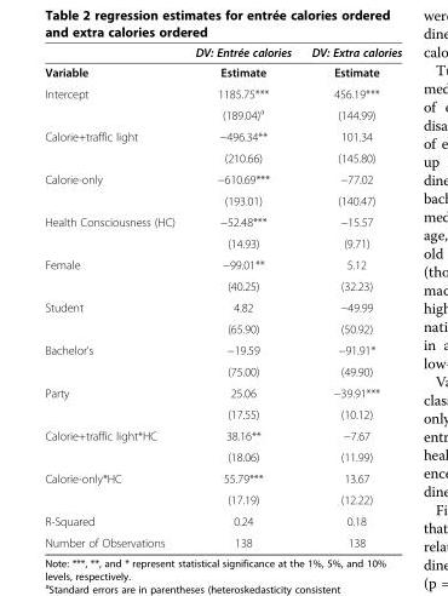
<table><thead><tr><td></td><td>DV: Entrée calories</td><td>DV: Extra calories</td></tr></thead><tbody><tr><td>Variable</td><td>Estimate</td><td>Estimate</td></tr><tr><td rowspan="2">Intercept</td><td>1185.75***</td><td>456.19***</td></tr><tr><td>(189.04)<sup>a</sup></td><td>(144.99)</td></tr><tr><td rowspan="2">Calorie+traffic light</td><td>−496.34**</td><td>101.34</td></tr><tr><td>(210.66)</td><td>(145.80)</td></tr><tr><td rowspan="2">Calorie-only</td><td>−610.69***</td><td>−77.02</td></tr><tr><td>(193.01)</td><td>(140.47)</td></tr><tr><td rowspan="2">Health Consciousness (HC)</td><td>−52.48***</td><td>−15.57</td></tr><tr><td>(14.93)</td><td>(9.71)</td></tr><tr><td rowspan="2">Female</td><td>−99.01**</td><td>5.12</td></tr><tr><td>(40.25)</td><td>(32.23)</td></tr><tr><td rowspan="2">Student</td><td>4.82</td><td>−49.99</td></tr><tr><td>(65.90)</td><td>(50.92)</td></tr><tr><td rowspan="2">Bachelor’s</td><td>−19.59</td><td>−91.91*</td></tr><tr><td>(75.00)</td><td>(49.90)</td></tr><tr><td rowspan="2">Party</td><td>25.06</td><td>−39.91***</td></tr><tr><td>(17.55)</td><td>(10.12)</td></tr><tr><td rowspan="2">Calorie+traffic light*HC</td><td>38.16**</td><td>−7.67</td></tr><tr><td>(18.06)</td><td>(11.99)</td></tr><tr><td rowspan="2">Calorie-only*HC</td><td>55.79***</td><td>13.67</td></tr><tr><td>(17.19)</td><td>(12.22)</td></tr><tr><td>R-Squared</td><td>0.24</td><td>0.18</td></tr><tr><td>Number of Observations</td><td>138</td><td>138</td></tr></tbody></table>